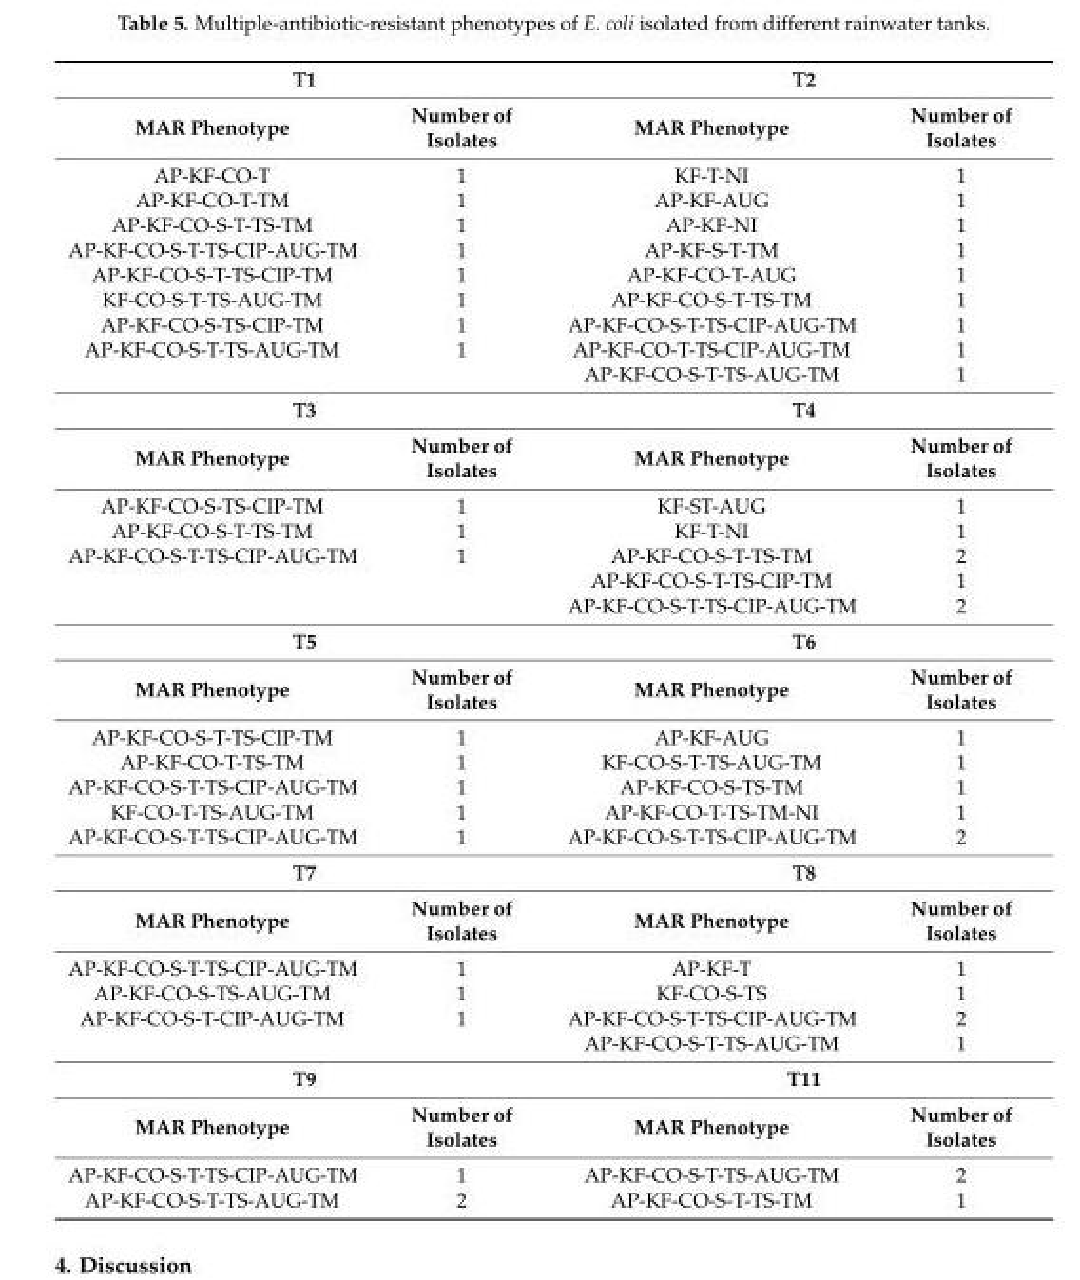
<table><thead><tr><td colspan="2">T1</td><td colspan="2">T2</td></tr><tr><td>MAR Phenotype</td><td>Number of Isolates</td><td>MAR Phenotype</td><td>Number of Isolates</td></tr></thead><tbody><tr><td>AP-KF-CO-T</td><td>1</td><td>KF-T-NI</td><td>1</td></tr><tr><td>AP-KF-CO-T-TM</td><td>1</td><td>AP-KF-AUG</td><td>1</td></tr><tr><td>AP-KF-CO-S-T-TS-TM</td><td>1</td><td>AP-KF-NI</td><td>1</td></tr><tr><td>AP-KF-CO-S-T-TS-CIP-AUG-TM</td><td>1</td><td>AP-KF-S-T-TM</td><td>1</td></tr><tr><td>AP-KF-CO-S-T-TS-CIP-TM</td><td>1</td><td>AP-KF-CO-T-AUG</td><td>1</td></tr><tr><td>KF-CO-S-T-TS-AUG-TM</td><td>1</td><td>AP-KF-CO-S-T-TS-TM</td><td>1</td></tr><tr><td>AP-KF-CO-S-TS-CIP-TM</td><td>1</td><td>AP-KF-CO-S-T-TS-CIP-AUG-TM</td><td>1</td></tr><tr><td rowspan="2">AP-KF-CO-S-T-TS-AUG-TM</td><td>1</td><td>AP-KF-CO-T-TS-CIP-AUG-TM</td><td>1</td></tr><tr><td></td><td>AP-KF-CO-S-T-TS-AUG-TM</td><td>1</td></tr><tr><td colspan="2">T3</td><td colspan="2">T4</td></tr><tr><td>MAR Phenotype</td><td>Number of Isolates</td><td>MAR Phenotype</td><td>Number of Isolates</td></tr><tr><td>AP-KF-CO-S-TS-CIP-TM</td><td>1</td><td>KF-ST-AUG</td><td>1</td></tr><tr><td>AP-KF-CO-S-T-TS-TM</td><td>1</td><td>KF-T-NI</td><td>1</td></tr><tr><td rowspan="3">AP-KF-CO-S-T-TS-CIP-AUG-TM</td><td>1</td><td>AP-KF-CO-S-T-TS-TM</td><td>2</td></tr><tr><td></td><td>AP-KF-CO-S-T-TS-CIP-TM</td><td>1</td></tr><tr><td></td><td>AP-KF-CO-S-T-TS-CIP-AUG-TM</td><td>2</td></tr><tr><td colspan="2">T5</td><td colspan="2">T6</td></tr><tr><td>MAR Phenotype</td><td>Number of Isolates</td><td>MAR Phenotype</td><td>Number of Isolates</td></tr><tr><td>AP-KF-CO-S-T-TS-CIP-TM</td><td>1</td><td>AP-KF-AUG</td><td>1</td></tr><tr><td>AP-KF-CO-T-TS-TM</td><td>1</td><td>KF-CO-S-T-TS-AUG-TM</td><td>1</td></tr><tr><td>AP-KF-CO-S-T-TS-CIP-AUG-TM</td><td>1</td><td>AP-KF-CO-S-TS-TM</td><td>1</td></tr><tr><td>KF-CO-T-TS-AUG-TM</td><td>1</td><td>AP-KF-CO-T-TS-TM-NI</td><td>1</td></tr><tr><td>AP-KF-CO-S-T-TS-CIP-AUG-TM</td><td>1</td><td>AP-KF-CO-S-T-TS-CIP-AUG-TM</td><td>2</td></tr><tr><td colspan="2">T7</td><td colspan="2">T8</td></tr><tr><td>MAR Phenotype</td><td>Number of Isolates</td><td>MAR Phenotype</td><td>Number of Isolates</td></tr><tr><td>AP-KF-CO-S-T-TS-CIP-AUG-TM</td><td>1</td><td>AP-KF-T</td><td>1</td></tr><tr><td>AP-KF-CO-S-TS-AUG-TM</td><td>1</td><td>KF-CO-S-TS</td><td>1</td></tr><tr><td rowspan="2">AP-KF-CO-S-T-CIP-AUG-TM</td><td>1</td><td>AP-KF-CO-S-T-TS-CIP-AUG-TM</td><td>2</td></tr><tr><td></td><td>AP-KF-CO-S-T-TS-AUG-TM</td><td>1</td></tr><tr><td colspan="2">T9</td><td colspan="2">T11</td></tr><tr><td>MAR Phenotype</td><td>Number of Isolates</td><td>MAR Phenotype</td><td>Number of Isolates</td></tr><tr><td>AP-KF-CO-S-T-TS-CIP-AUG-TM</td><td>1</td><td>AP-KF-CO-S-T-TS-AUG-TM</td><td>2</td></tr><tr><td>AP-KF-CO-S-T-TS-AUG-TM</td><td>2</td><td>AP-KF-CO-S-T-TS-TM</td><td>1</td></tr></tbody></table>